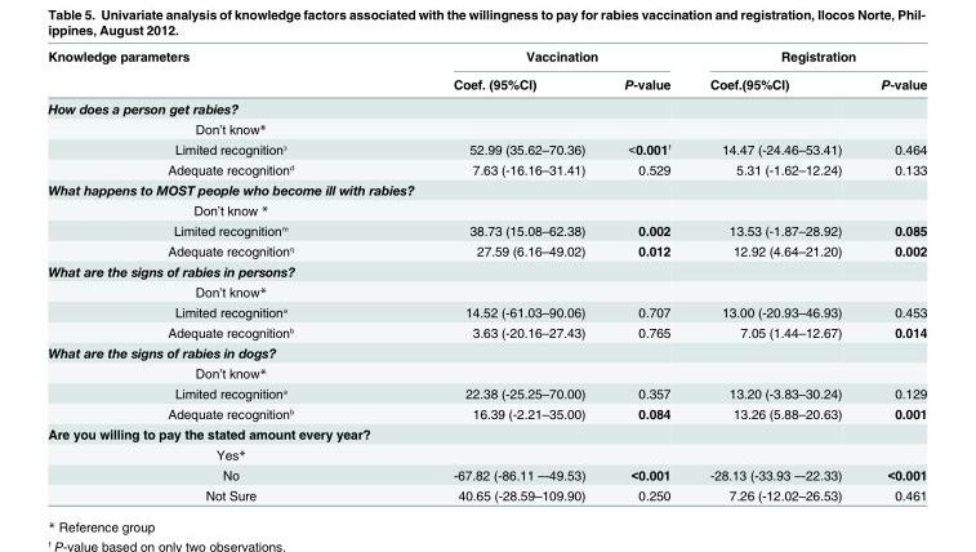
<table><thead><tr><td rowspan="2">Knowledge parameters</td><td colspan="2">Vaccination</td><td colspan="2">Registration</td></tr><tr><td>Coef. (95%CI)</td><td>P-value</td><td>Coef.(95%CI)</td><td>P-value</td></tr></thead><tbody><tr><td colspan="5">How does a person get rabies?</td></tr><tr><td colspan="5">Don’t know*</td></tr><tr><td>Limited recognitionᵓ</td><td>52.99 (35.62–70.36)</td><td>&lt;0.001ᶠ</td><td>14.47 (-24.46–53.41)</td><td>0.464</td></tr><tr><td>Adequate recognitionᵈ</td><td>7.63 (-16.16–31.41)</td><td>0.529</td><td>5.31 (-1.62–12.24)</td><td>0.133</td></tr><tr><td colspan="5">What happens to MOST people who become ill with rabies?</td></tr><tr><td colspan="5">Don’t know *</td></tr><tr><td>Limited recognitionᵐ</td><td>38.73 (15.08–62.38)</td><td>0.002</td><td>13.53 (-1.87–28.92)</td><td>0.085</td></tr><tr><td>Adequate recognitionᵑ</td><td>27.59 (6.16–49.02)</td><td>0.012</td><td>12.92 (4.64–21.20)</td><td>0.002</td></tr><tr><td colspan="5">What are the signs of rabies in persons?</td></tr><tr><td colspan="5">Don’t know*</td></tr><tr><td>Limited recognitionᵃ</td><td>14.52 (-61.03–90.06)</td><td>0.707</td><td>13.00 (-20.93–46.93)</td><td>0.453</td></tr><tr><td>Adequate recognitionᵇ</td><td>3.63 (-20.16–27.43)</td><td>0.765</td><td>7.05 (1.44–12.67)</td><td>0.014</td></tr><tr><td colspan="5">What are the signs of rabies in dogs?</td></tr><tr><td colspan="5">Don’t know*</td></tr><tr><td>Limited recognitionᵃ</td><td>22.38 (-25.25–70.00)</td><td>0.357</td><td>13.20 (-3.83–30.24)</td><td>0.129</td></tr><tr><td>Adequate recognitionᵇ</td><td>16.39 (-2.21–35.00)</td><td>0.084</td><td>13.26 (5.88–20.63)</td><td>0.001</td></tr><tr><td colspan="5">Are you willing to pay the stated amount every year?</td></tr><tr><td colspan="5">Yes*</td></tr><tr><td>No</td><td>-67.82 (-86.11 –-49.53)</td><td>&lt;0.001</td><td>-28.13 (-33.93 –-22.33)</td><td>&lt;0.001</td></tr><tr><td>Not Sure</td><td>40.65 (-28.59–109.90)</td><td>0.250</td><td>7.26 (-12.02–26.53)</td><td>0.461</td></tr></tbody></table>